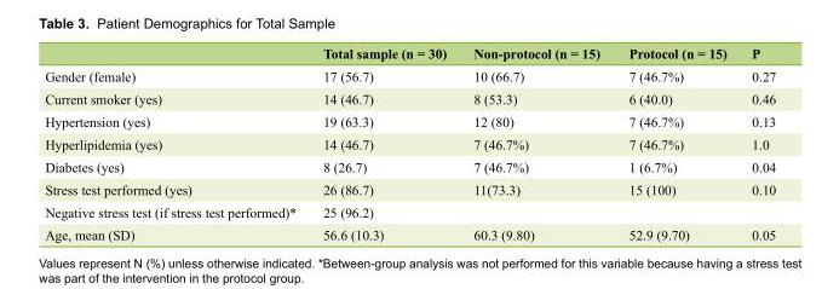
<table><thead><tr><td></td><td>Total sample (n = 30)</td><td>Non-protocol (n = 15)</td><td>Protocol (n = 15)</td><td>P</td></tr></thead><tbody><tr><td>Gender (female)</td><td>17 (56.7)</td><td>10 (66.7)</td><td>7 (46.7%)</td><td>0.27</td></tr><tr><td>Current smoker (yes)</td><td>14 (46.7)</td><td>8 (53.3)</td><td>6 (40.0)</td><td>0.46</td></tr><tr><td>Hypertension (yes)</td><td>19 (63.3)</td><td>12 (80)</td><td>7 (46.7%)</td><td>0.13</td></tr><tr><td>Hyperlipidemia (yes)</td><td>14 (46.7)</td><td>7 (46.7%)</td><td>7 (46.7%)</td><td>1.0</td></tr><tr><td>Diabetes (yes)</td><td>8 (26.7)</td><td>7 (46.7%)</td><td>1 (6.7%)</td><td>0.04</td></tr><tr><td>Stress test performed (yes)</td><td>26 (86.7)</td><td>11(73.3)</td><td>15 (100)</td><td>0.10</td></tr><tr><td>Negative stress test (if stress test performed)*</td><td>25 (96.2)</td><td></td><td></td><td></td></tr><tr><td>Age, mean (SD)</td><td>56.6 (10.3)</td><td>60.3 (9.80)</td><td>52.9 (9.70)</td><td>0.05</td></tr></tbody></table>